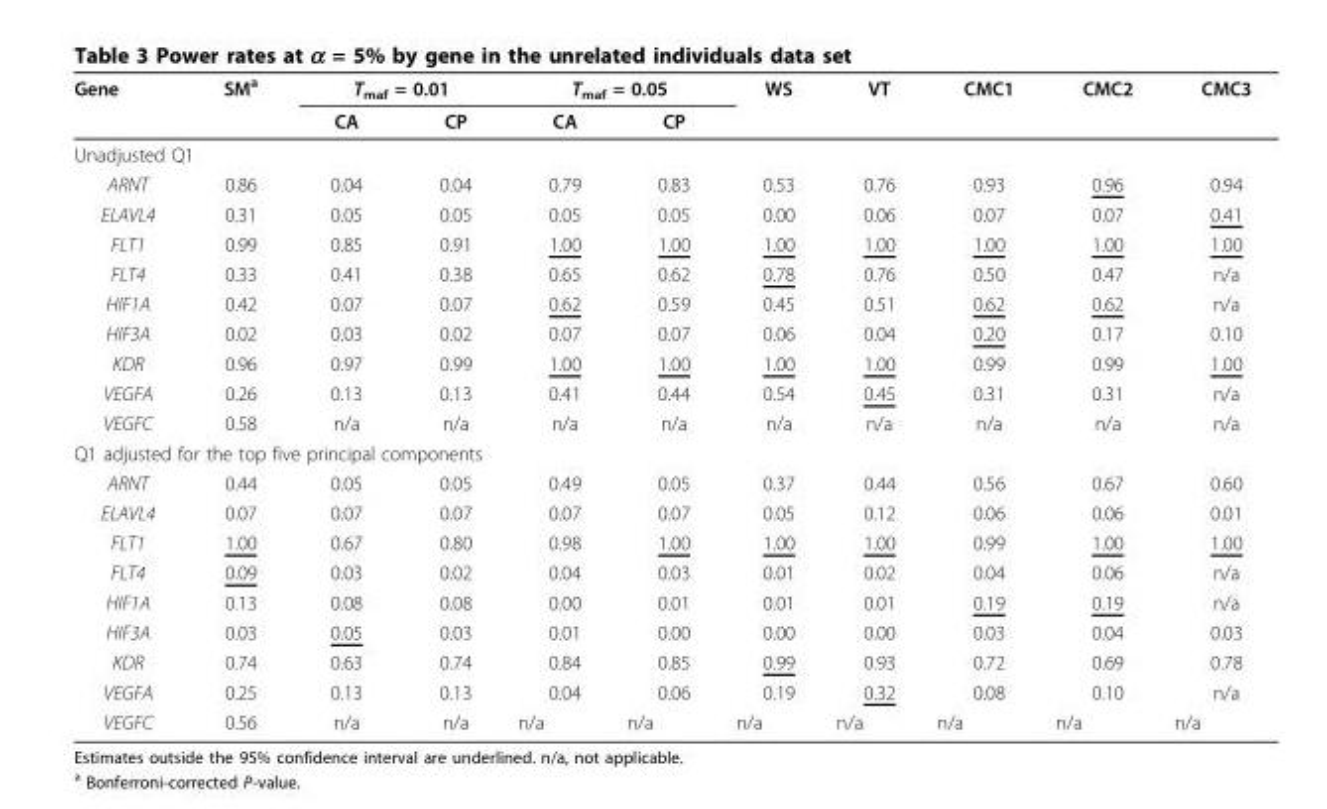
<table><thead><tr><td rowspan="2">Gene</td><td rowspan="2">SM<sup>a</sup></td><td colspan="2">T<sub>maf</sub> = 0.01</td><td colspan="2">T<sub>maf</sub> = 0.05</td><td rowspan="2">WS</td><td rowspan="2">VT</td><td rowspan="2">CMC1</td><td rowspan="2">CMC2</td><td rowspan="2">CMC3</td></tr><tr><td>CA</td><td>CP</td><td>CA</td><td>CP</td></tr></thead><tbody><tr><td colspan="11">Unadjusted Q1</td></tr><tr><td>ARNT</td><td>0.86</td><td>0.04</td><td>0.04</td><td>0.79</td><td>0.83</td><td>0.53</td><td>0.76</td><td>0.93</td><td>0.96</td><td>0.94</td></tr><tr><td>ELAVL4</td><td>0.31</td><td>0.05</td><td>0.05</td><td>0.05</td><td>0.05</td><td>0.00</td><td>0.06</td><td>0.07</td><td>0.07</td><td>0.41</td></tr><tr><td>FLT1</td><td>0.99</td><td>0.85</td><td>0.91</td><td>1.00</td><td>1.00</td><td>1.00</td><td>1.00</td><td>1.00</td><td>1.00</td><td>1.00</td></tr><tr><td>FLT4</td><td>0.33</td><td>0.41</td><td>0.38</td><td>0.65</td><td>0.62</td><td>0.78</td><td>0.76</td><td>0.50</td><td>0.47</td><td>n/a</td></tr><tr><td>HIF1A</td><td>0.42</td><td>0.07</td><td>0.07</td><td>0.62</td><td>0.59</td><td>0.45</td><td>0.51</td><td>0.62</td><td>0.62</td><td>n/a</td></tr><tr><td>HIF3A</td><td>0.02</td><td>0.03</td><td>0.02</td><td>0.07</td><td>0.07</td><td>0.06</td><td>0.04</td><td>0.20</td><td>0.17</td><td>0.10</td></tr><tr><td>KDR</td><td>0.96</td><td>0.97</td><td>0.99</td><td>1.00</td><td>1.00</td><td>1.00</td><td>1.00</td><td>0.99</td><td>0.99</td><td>1.00</td></tr><tr><td>VEGFA</td><td>0.26</td><td>0.13</td><td>0.13</td><td>0.41</td><td>0.44</td><td>0.54</td><td>0.45</td><td>0.31</td><td>0.31</td><td>n/a</td></tr><tr><td>VEGFC</td><td>0.58</td><td>n/a</td><td>n/a</td><td>n/a</td><td>n/a</td><td>n/a</td><td>n/a</td><td>n/a</td><td>n/a</td><td>n/a</td></tr><tr><td colspan="11">Q1 adjusted for the top five principal components</td></tr><tr><td>ARNT</td><td>0.44</td><td>0.05</td><td>0.05</td><td>0.49</td><td>0.05</td><td>0.37</td><td>0.44</td><td>0.56</td><td>0.67</td><td>0.60</td></tr><tr><td>ELAVL4</td><td>0.07</td><td>0.07</td><td>0.07</td><td>0.07</td><td>0.07</td><td>0.05</td><td>0.12</td><td>0.06</td><td>0.06</td><td>0.01</td></tr><tr><td>FLT1</td><td>1.00</td><td>0.67</td><td>0.80</td><td>0.98</td><td>1.00</td><td>1.00</td><td>1.00</td><td>0.99</td><td>1.00</td><td>1.00</td></tr><tr><td>FLT4</td><td>0.09</td><td>0.03</td><td>0.02</td><td>0.04</td><td>0.03</td><td>0.01</td><td>0.02</td><td>0.04</td><td>0.06</td><td>n/a</td></tr><tr><td>HIF1A</td><td>0.13</td><td>0.08</td><td>0.08</td><td>0.00</td><td>0.01</td><td>0.01</td><td>0.01</td><td>0.19</td><td>0.19</td><td>n/a</td></tr><tr><td>HIF3A</td><td>0.03</td><td>0.05</td><td>0.03</td><td>0.01</td><td>0.00</td><td>0.00</td><td>0.00</td><td>0.03</td><td>0.04</td><td>0.03</td></tr><tr><td>KDR</td><td>0.74</td><td>0.63</td><td>0.74</td><td>0.84</td><td>0.85</td><td>0.99</td><td>0.93</td><td>0.72</td><td>0.69</td><td>0.78</td></tr><tr><td>VEGFA</td><td>0.25</td><td>0.13</td><td>0.13</td><td>0.04</td><td>0.06</td><td>0.19</td><td>0.32</td><td>0.08</td><td>0.10</td><td>n/a</td></tr><tr><td>VEGFC</td><td>0.56</td><td>n/a</td><td>n/a</td><td>n/a</td><td>n/a</td><td>n/a</td><td>n/a</td><td>n/a</td><td>n/a</td><td>n/a</td></tr></tbody></table>